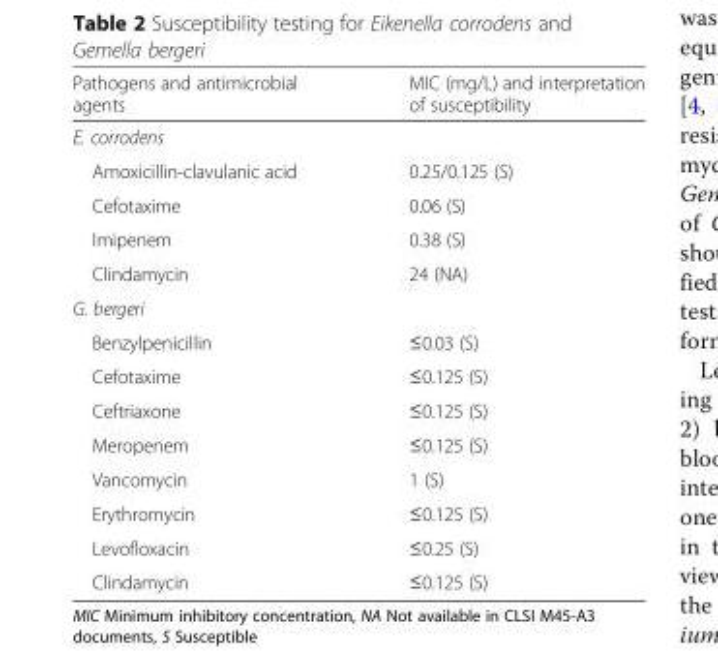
<table><thead><tr><td>Pathogens and antimicrobial agents</td><td>MIC (mg/L) and interpretation of susceptibility</td></tr></thead><tbody><tr><td colspan="2">E. corrodens</td></tr><tr><td>Amoxicillin-clavulanic acid</td><td>0.25/0.125 (S)</td></tr><tr><td>Cefotaxime</td><td>0.06 (S)</td></tr><tr><td>Imipenem</td><td>0.38 (S)</td></tr><tr><td>Clindamycin</td><td>24 (NA)</td></tr><tr><td colspan="2">G. bergeri</td></tr><tr><td>Benzylpenicillin</td><td>≤0.03 (S)</td></tr><tr><td>Cefotaxime</td><td>≤0.125 (S)</td></tr><tr><td>Ceftriaxone</td><td>≤0.125 (S)</td></tr><tr><td>Meropenem</td><td>≤0.125 (S)</td></tr><tr><td>Vancomycin</td><td>1 (S)</td></tr><tr><td>Erythromycin</td><td>≤0.125 (S)</td></tr><tr><td>Levofloxacin</td><td>≤0.25 (S)</td></tr><tr><td>Clindamycin</td><td>≤0.125 (S)</td></tr></tbody></table>